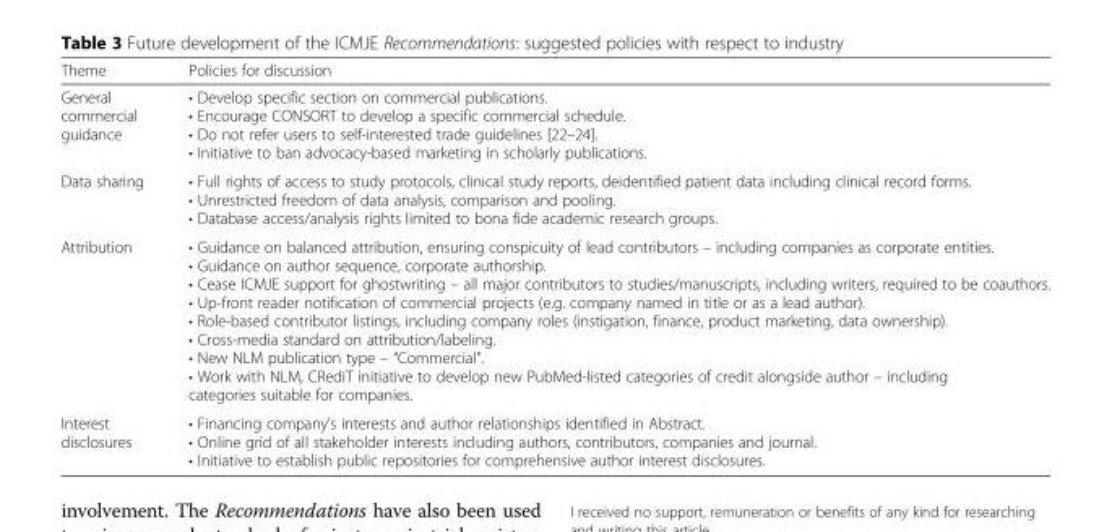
<table><thead><tr><td>Theme</td><td>Policies for discussion</td></tr></thead><tbody><tr><td>General commercial guidance</td><td>• Develop specific section on commercial publications. • Encourage CONSORT to develop a specific commercial schedule. • Do not refer users to self-interested trade guidelines [22–24]. • Initiative to ban advocacy-based marketing in scholarly publications.</td></tr><tr><td>Data sharing</td><td>• Full rights of access to study protocols, clinical study reports, deidentified patient data including clinical record forms. • Unrestricted freedom of data analysis, comparison and pooling. • Database access/analysis rights limited to bona fide academic research groups.</td></tr><tr><td>Attribution</td><td>• Guidance on balanced attribution, ensuring conspicuity of lead contributors – including companies as corporate entities. • Guidance on author sequence, corporate authorship. • Cease ICMJE support for ghostwriting – all major contributors to studies/manuscripts, including writers, required to be coauthors. • Up-front reader notification of commercial projects (e.g. company named in title or as a lead author). • Role-based contributor listings, including company roles (instigation, finance, product marketing, data ownership). • Cross-media standard on attribution/labeling. • New NLM publication type – “Commercial”. • Work with NLM, CRediT initiative to develop new PubMed-listed categories of credit alongside author – including categories suitable for companies.</td></tr><tr><td>Interest disclosures</td><td>• Financing company’s interests and author relationships identified in Abstract. • Online grid of all stakeholder interests including authors, contributors, companies and journal. • Initiative to establish public repositories for comprehensive author interest disclosures.</td></tr></tbody></table>